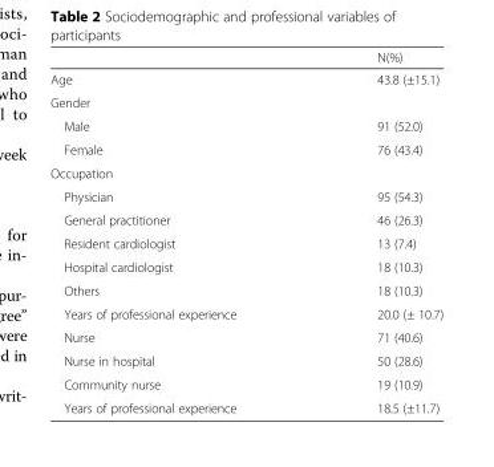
<table><thead><tr><td></td><td>N(%)</td></tr></thead><tbody><tr><td>Age</td><td>43.8 (±15.1)</td></tr><tr><td colspan="2">Gender</td></tr><tr><td>Male</td><td>91 (52.0)</td></tr><tr><td>Female</td><td>76 (43.4)</td></tr><tr><td colspan="2">Occupation</td></tr><tr><td>Physician</td><td>95 (54.3)</td></tr><tr><td>General practitioner</td><td>46 (26.3)</td></tr><tr><td>Resident cardiologist</td><td>13 (7.4)</td></tr><tr><td>Hospital cardiologist</td><td>18 (10.3)</td></tr><tr><td>Others</td><td>18 (10.3)</td></tr><tr><td>Years of professional experience</td><td>20.0 (± 10.7)</td></tr><tr><td>Nurse</td><td>71 (40.6)</td></tr><tr><td>Nurse in hospital</td><td>50 (28.6)</td></tr><tr><td>Community nurse</td><td>19 (10.9)</td></tr><tr><td>Years of professional experience</td><td>18.5 (±11.7)</td></tr></tbody></table>